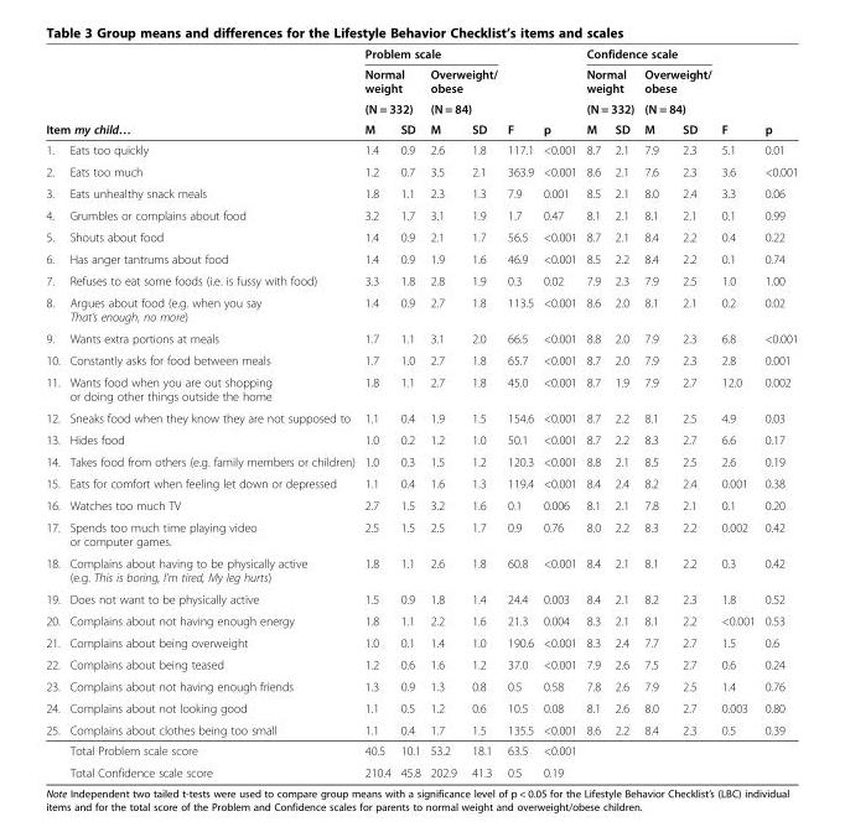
<table><thead><tr><td rowspan="3"></td><td rowspan="3"></td><td colspan="4">Problem scale</td><td rowspan="4">F</td><td rowspan="4">p</td><td colspan="4">Confidence scale</td><td rowspan="4">F</td><td rowspan="4">p</td></tr><tr><td rowspan="2" colspan="2">Normal weight (N = 332)</td><td rowspan="2" colspan="2">Overweight/ obese (N = 84)</td><td rowspan="2" colspan="2">Normal weight (N = 332)</td><td rowspan="2" colspan="2">Overweight/ obese (N = 84)</td></tr><tr></tr><tr><td colspan="2">Item my child…</td><td>M</td><td>SD</td><td>M</td><td>SD</td><td>M</td><td>SD</td><td>M</td><td>SD</td></tr></thead><tbody><tr><td>1.</td><td>Eats too quickly</td><td>1.4</td><td>0.9</td><td>2.6</td><td>1.8</td><td>117.1</td><td>&lt;0.001</td><td>8.7</td><td>2.1</td><td>7.9</td><td>2.3</td><td>5.1</td><td>0.01</td></tr><tr><td>2.</td><td>Eats too much</td><td>1.2</td><td>0.7</td><td>3.5</td><td>2.1</td><td>363.9</td><td>&lt;0.001</td><td>8.6</td><td>2.1</td><td>7.6</td><td>2.3</td><td>3.6</td><td>&lt;0.001</td></tr><tr><td>3.</td><td>Eats unhealthy snack meals</td><td>1.8</td><td>1.1</td><td>2.3</td><td>1.3</td><td>7.9</td><td>0.001</td><td>8.5</td><td>2.1</td><td>8.0</td><td>2.4</td><td>3.3</td><td>0.06</td></tr><tr><td>4.</td><td>Grumbles or complains about food</td><td>3.2</td><td>1.7</td><td>3.1</td><td>1.9</td><td>1.7</td><td>0.47</td><td>8.1</td><td>2.1</td><td>8.1</td><td>2.1</td><td>0.1</td><td>0.99</td></tr><tr><td>5.</td><td>Shouts about food</td><td>1.4</td><td>0.9</td><td>2.1</td><td>1.7</td><td>56.5</td><td>&lt;0.001</td><td>8.7</td><td>2.1</td><td>8.4</td><td>2.2</td><td>0.4</td><td>0.22</td></tr><tr><td>6.</td><td>Has anger tantrums about food</td><td>1.4</td><td>0.9</td><td>1.9</td><td>1.6</td><td>46.9</td><td>&lt;0.001</td><td>8.5</td><td>2.2</td><td>8.4</td><td>2.2</td><td>0.1</td><td>0.74</td></tr><tr><td>7.</td><td>Refuses to eat some foods (i.e. is fussy with food)</td><td>3.3</td><td>1.8</td><td>2.8</td><td>1.9</td><td>0.3</td><td>0.02</td><td>7.9</td><td>2.3</td><td>7.9</td><td>2.5</td><td>1.0</td><td>1.00</td></tr><tr><td>8.</td><td>Argues about food (e.g. when you say That’s enough, no more)</td><td>1.4</td><td>0.9</td><td>2.7</td><td>1.8</td><td>113.5</td><td>&lt;0.001</td><td>8.6</td><td>2.0</td><td>8.1</td><td>2.1</td><td>0.2</td><td>0.02</td></tr><tr><td>9.</td><td>Wants extra portions at meals</td><td>1.7</td><td>1.1</td><td>3.1</td><td>2.0</td><td>66.5</td><td>&lt;0.001</td><td>8.8</td><td>2.0</td><td>7.9</td><td>2.3</td><td>6.8</td><td>&lt;0.001</td></tr><tr><td>10.</td><td>Constantly asks for food between meals</td><td>1.7</td><td>1.0</td><td>2.7</td><td>1.8</td><td>65.7</td><td>&lt;0.001</td><td>8.7</td><td>2.0</td><td>7.9</td><td>2.3</td><td>2.8</td><td>0.001</td></tr><tr><td>11.</td><td>Wants food when you are out shopping or doing other things outside the home</td><td>1.8</td><td>1.1</td><td>2.7</td><td>1.8</td><td>45.0</td><td>&lt;0.001</td><td>8.7</td><td>1.9</td><td>7.9</td><td>2.7</td><td>12.0</td><td>0.002</td></tr><tr><td>12.</td><td>Sneaks food when they know they are not supposed to</td><td>1.1</td><td>0.4</td><td>1.9</td><td>1.5</td><td>154.6</td><td>&lt;0.001</td><td>8.7</td><td>2.2</td><td>8.1</td><td>2.5</td><td>4.9</td><td>0.03</td></tr><tr><td>13.</td><td>Hides food</td><td>1.0</td><td>0.2</td><td>1.2</td><td>1.0</td><td>50.1</td><td>&lt;0.001</td><td>8.7</td><td>2.2</td><td>8.3</td><td>2.7</td><td>6.6</td><td>0.17</td></tr><tr><td>14.</td><td>Takes food from others (e.g. family members or children)</td><td>1.0</td><td>0.3</td><td>1.5</td><td>1.2</td><td>120.3</td><td>&lt;0.001</td><td>8.8</td><td>2.1</td><td>8.5</td><td>2.5</td><td>2.6</td><td>0.19</td></tr><tr><td>15.</td><td>Eats for comfort when feeling let down or depressed</td><td>1.1</td><td>0.4</td><td>1.6</td><td>1.3</td><td>119.4</td><td>&lt;0.001</td><td>8.4</td><td>2.4</td><td>8.2</td><td>2.4</td><td>0.001</td><td>0.38</td></tr><tr><td>16.</td><td>Watches too much TV</td><td>2.7</td><td>1.5</td><td>3.2</td><td>1.6</td><td>0.1</td><td>0.006</td><td>8.1</td><td>2.1</td><td>7.8</td><td>2.1</td><td>0.1</td><td>0.20</td></tr><tr><td>17.</td><td>Spends too much time playing video or computer games.</td><td>2.5</td><td>1.5</td><td>2.5</td><td>1.7</td><td>0.9</td><td>0.76</td><td>8.0</td><td>2.2</td><td>8.3</td><td>2.2</td><td>0.002</td><td>0.42</td></tr><tr><td>18.</td><td>Complains about having to be physically active (e.g. This is boring, I’m tired, My leg hurts)</td><td>1.8</td><td>1.1</td><td>2.6</td><td>1.8</td><td>60.8</td><td>&lt;0.001</td><td>8.4</td><td>2.1</td><td>8.1</td><td>2.2</td><td>0.3</td><td>0.42</td></tr><tr><td>19.</td><td>Does not want to be physically active</td><td>1.5</td><td>0.9</td><td>1.8</td><td>1.4</td><td>24.4</td><td>0.003</td><td>8.4</td><td>2.1</td><td>8.2</td><td>2.3</td><td>1.8</td><td>0.52</td></tr><tr><td>20.</td><td>Complains about not having enough energy</td><td>1.8</td><td>1.1</td><td>2.2</td><td>1.6</td><td>21.3</td><td>0.004</td><td>8.3</td><td>2.1</td><td>8.1</td><td>2.2</td><td>&lt;0.001</td><td>0.53</td></tr><tr><td>21.</td><td>Complains about being overweight</td><td>1.0</td><td>0.1</td><td>1.4</td><td>1.0</td><td>190.6</td><td>&lt;0.001</td><td>8.3</td><td>2.4</td><td>7.7</td><td>2.7</td><td>1.5</td><td>0.6</td></tr><tr><td>22.</td><td>Complains about being teased</td><td>1.2</td><td>0.6</td><td>1.6</td><td>1.2</td><td>37.0</td><td>&lt;0.001</td><td>7.9</td><td>2.6</td><td>7.5</td><td>2.7</td><td>0.6</td><td>0.24</td></tr><tr><td>23.</td><td>Complains about not having enough friends</td><td>1.3</td><td>0.9</td><td>1.3</td><td>0.8</td><td>0.5</td><td>0.58</td><td>7.8</td><td>2.6</td><td>7.9</td><td>2.5</td><td>1.4</td><td>0.76</td></tr><tr><td>24.</td><td>Complains about not looking good</td><td>1.1</td><td>0.5</td><td>1.2</td><td>0.6</td><td>10.5</td><td>0.08</td><td>8.1</td><td>2.6</td><td>8.0</td><td>2.7</td><td>0.003</td><td>0.80</td></tr><tr><td rowspan="3">25.</td><td>Complains about clothes being too small</td><td>1.1</td><td>0.4</td><td>1.7</td><td>1.5</td><td>135.5</td><td>&lt;0.001</td><td>8.6</td><td>2.2</td><td>8.4</td><td>2.3</td><td>0.5</td><td>0.39</td></tr><tr><td>Total Problem scale score</td><td>40.5</td><td>10.1</td><td>53.2</td><td>18.1</td><td>63.5</td><td>&lt;0.001</td><td></td><td></td><td></td><td></td><td></td><td></td></tr><tr><td>Total Confidence scale score</td><td>210.4</td><td>45.8</td><td>202.9</td><td>41.3</td><td>0.5</td><td>0.19</td><td></td><td></td><td></td><td></td><td></td><td></td></tr></tbody></table>